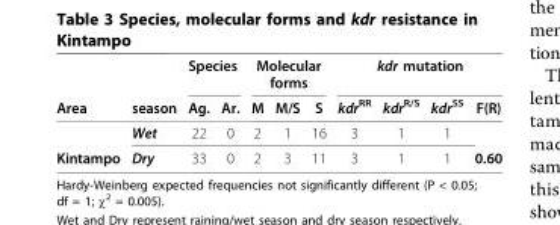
<table><thead><tr><td rowspan="2">Area</td><td rowspan="2">season</td><td colspan="2">Species</td><td colspan="3">Molecular forms</td><td colspan="4">kdr mutation</td></tr><tr><td>Ag.</td><td>Ar.</td><td>M</td><td>M/S</td><td>S</td><td>kdr<sup>RR</sup></td><td>kdr<sup>R/S</sup></td><td>kdr<sup>SS</sup></td><td>F(R)</td></tr></thead><tbody><tr><td></td><td>Wet</td><td>22</td><td>0</td><td>2</td><td>1</td><td>16</td><td>3</td><td>1</td><td>1</td><td></td></tr><tr><td>Kintampo</td><td>Dry</td><td>33</td><td>0</td><td>2</td><td>3</td><td>11</td><td>3</td><td>1</td><td>1</td><td>0.60</td></tr></tbody></table>